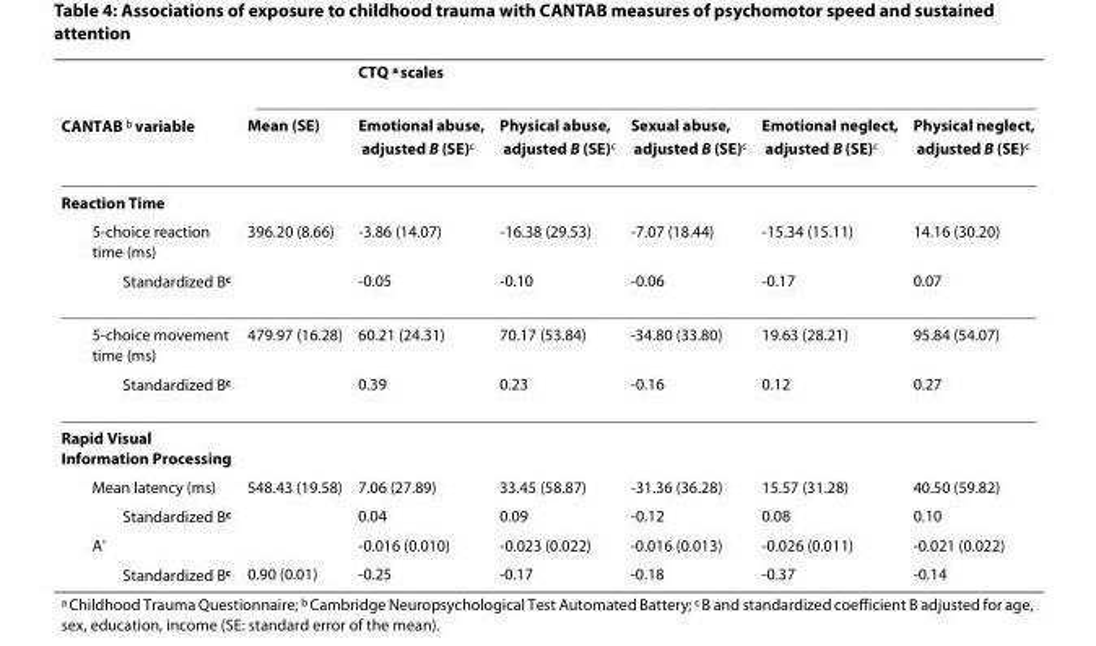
<table><thead><tr><td rowspan="2">CANTAB <sup>b</sup> variable</td><td rowspan="2">Mean (SE)</td><td rowspan="2">CTQ <sup>a</sup> scales Emotional abuse, adjusted B (SE)<sup>c</sup></td><td rowspan="2">Physical abuse, adjusted B (SE)<sup>c</sup></td><td rowspan="2">Sexual abuse, adjusted B (SE)<sup>c</sup></td><td rowspan="2">Emotional neglect, adjusted B (SE)<sup>c</sup></td><td rowspan="2">Physical neglect, adjusted B (SE)<sup>c</sup></td></tr><tr></tr></thead><tbody><tr><td colspan="7">Reaction Time</td></tr><tr><td>5-choice reaction time (ms)</td><td>396.20 (8.66)</td><td>-3.86 (14.07)</td><td>-16.38 (29.53)</td><td>-7.07 (18.44)</td><td>-15.34 (15.11)</td><td>14.16 (30.20)</td></tr><tr><td>Standardized B<sup>c</sup></td><td></td><td>-0.05</td><td>-0.10</td><td>-0.06</td><td>-0.17</td><td>0.07</td></tr><tr><td>5-choice movement time (ms)</td><td>479.97 (16.28)</td><td>60.21 (24.31)</td><td>70.17 (53.84)</td><td>-34.80 (33.80)</td><td>19.63 (28.21)</td><td>95.84 (54.07)</td></tr><tr><td>Standardized B<sup>c</sup></td><td></td><td>0.39</td><td>0.23</td><td>-0.16</td><td>0.12</td><td>0.27</td></tr><tr><td colspan="7">Rapid Visual Information Processing</td></tr><tr><td>Mean latency (ms)</td><td>548.43 (19.58)</td><td>7.06 (27.89)</td><td>33.45 (58.87)</td><td>-31.36 (36.28)</td><td>15.57 (31.28)</td><td>40.50 (59.82)</td></tr><tr><td>Standardized B<sup>c</sup></td><td></td><td>0.04</td><td>0.09</td><td>-0.12</td><td>0.08</td><td>0.10</td></tr><tr><td>A&#x27;</td><td></td><td>-0.016 (0.010)</td><td>-0.023 (0.022)</td><td>-0.016 (0.013)</td><td>-0.026 (0.011)</td><td>-0.021 (0.022)</td></tr><tr><td>Standardized B<sup>c</sup></td><td>0.90 (0.01)</td><td>-0.25</td><td>-0.17</td><td>-0.18</td><td>-0.37</td><td>-0.14</td></tr></tbody></table>